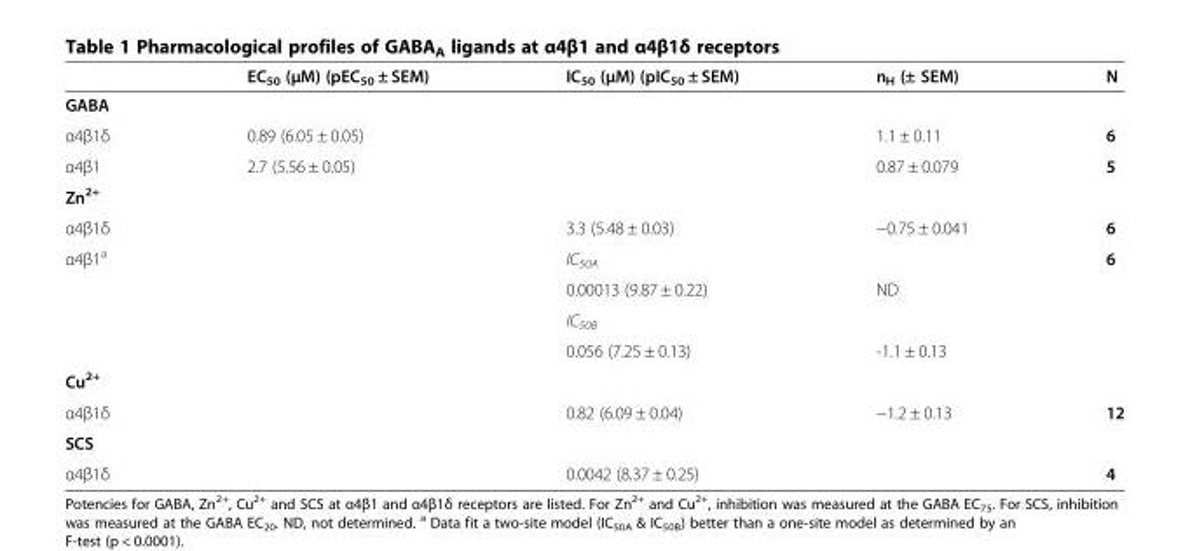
<table><thead><tr><td></td><td>EC<sub>50</sub> (μM) (pEC<sub>50</sub> ± SEM)</td><td>IC<sub>50</sub> (μM) (pIC<sub>50</sub> ± SEM)</td><td>n<sub>H</sub> (± SEM)</td><td>N</td></tr></thead><tbody><tr><td colspan="5">GABA</td></tr><tr><td>α4β1δ</td><td>0.89 (6.05 ± 0.05)</td><td></td><td>1.1 ± 0.11</td><td>6</td></tr><tr><td>α4β1</td><td>2.7 (5.56 ± 0.05)</td><td></td><td>0.87 ± 0.079</td><td>5</td></tr><tr><td colspan="5">Zn<sup>2+</sup></td></tr><tr><td>α4β1δ</td><td></td><td>3.3 (5.48 ± 0.03)</td><td>−0.75 ± 0.041</td><td>6</td></tr><tr><td rowspan="4">α4β1<sup>a</sup></td><td></td><td>IC<sub>50A</sub></td><td></td><td>6</td></tr><tr><td></td><td>0.00013 (9.87 ± 0.22)</td><td>ND</td><td></td></tr><tr><td></td><td>IC<sub>50B</sub></td><td></td><td></td></tr><tr><td></td><td>0.056 (7.25 ± 0.13)</td><td>-1.1 ± 0.13</td><td></td></tr><tr><td colspan="5">Cu<sup>2+</sup></td></tr><tr><td>α4β1δ</td><td></td><td>0.82 (6.09 ± 0.04)</td><td>−1.2 ± 0.13</td><td>12</td></tr><tr><td colspan="5">SCS</td></tr><tr><td>α4β1δ</td><td></td><td>0.0042 (8.37 ± 0.25)</td><td></td><td>4</td></tr></tbody></table>